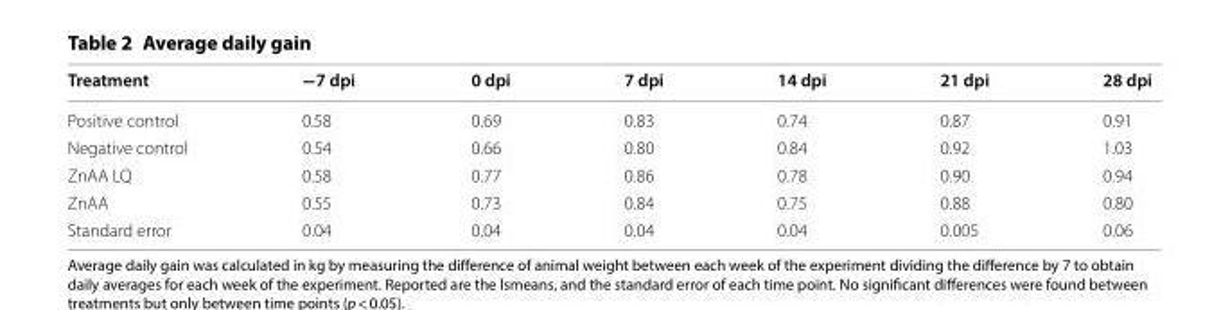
<table><thead><tr><td>Treatment</td><td>−7 dpi</td><td>0 dpi</td><td>7 dpi</td><td>14 dpi</td><td>21 dpi</td><td>28 dpi</td></tr></thead><tbody><tr><td>Positive control</td><td>0.58</td><td>0.69</td><td>0.83</td><td>0.74</td><td>0.87</td><td>0.91</td></tr><tr><td>Negative control</td><td>0.54</td><td>0.66</td><td>0.80</td><td>0.84</td><td>0.92</td><td>1.03</td></tr><tr><td>ZnAA LQ</td><td>0.58</td><td>0.77</td><td>0.86</td><td>0.78</td><td>0.90</td><td>0.94</td></tr><tr><td>ZnAA</td><td>0.55</td><td>0.73</td><td>0.84</td><td>0.75</td><td>0.88</td><td>0.80</td></tr><tr><td>Standard error</td><td>0.04</td><td>0.04</td><td>0.04</td><td>0.04</td><td>0.005</td><td>0.06</td></tr></tbody></table>